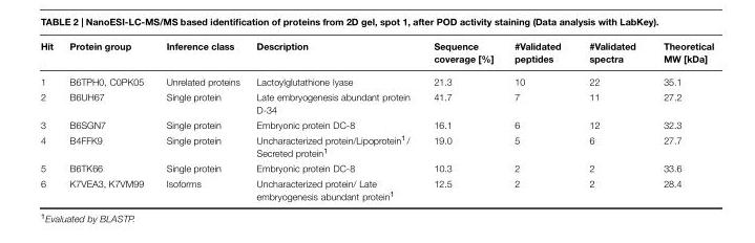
<table><thead><tr><td>Hit</td><td>Protein group</td><td>Inference class</td><td>Description</td><td>Sequence coverage [%]</td><td>#Validated peptides</td><td>#Validated spectra</td><td>Theoretical MW [kDa]</td></tr></thead><tbody><tr><td>1</td><td>B6TPH0, C0PK05</td><td>Unrelated proteins</td><td>Lactoylglutathione lyase</td><td>21.3</td><td>10</td><td>22</td><td>35.1</td></tr><tr><td>2</td><td>B6UH67</td><td>Single protein</td><td>Late embryogenesis abundant protein D-34</td><td>41.7</td><td>7</td><td>11</td><td>27.2</td></tr><tr><td>3</td><td>B6SGN7</td><td>Single protein</td><td>Embryonic protein DC-8</td><td>16.1</td><td>6</td><td>12</td><td>32.3</td></tr><tr><td>4</td><td>B4FFK9</td><td>Single protein</td><td>Uncharacterized protein/Lipoprotein<sup>1</sup> / Secreted protein<sup>1</sup></td><td>19.0</td><td>5</td><td>6</td><td>27.7</td></tr><tr><td>5</td><td>B6TK66</td><td>Single protein</td><td>Embryonic protein DC-8</td><td>10.3</td><td>2</td><td>2</td><td>33.6</td></tr><tr><td>6</td><td>K7VEA3, K7VM99</td><td>Isoforms</td><td>Uncharacterized protein/ Late embryogenesis abundant protein<sup>1</sup></td><td>12.5</td><td>2</td><td>2</td><td>28.4</td></tr></tbody></table>